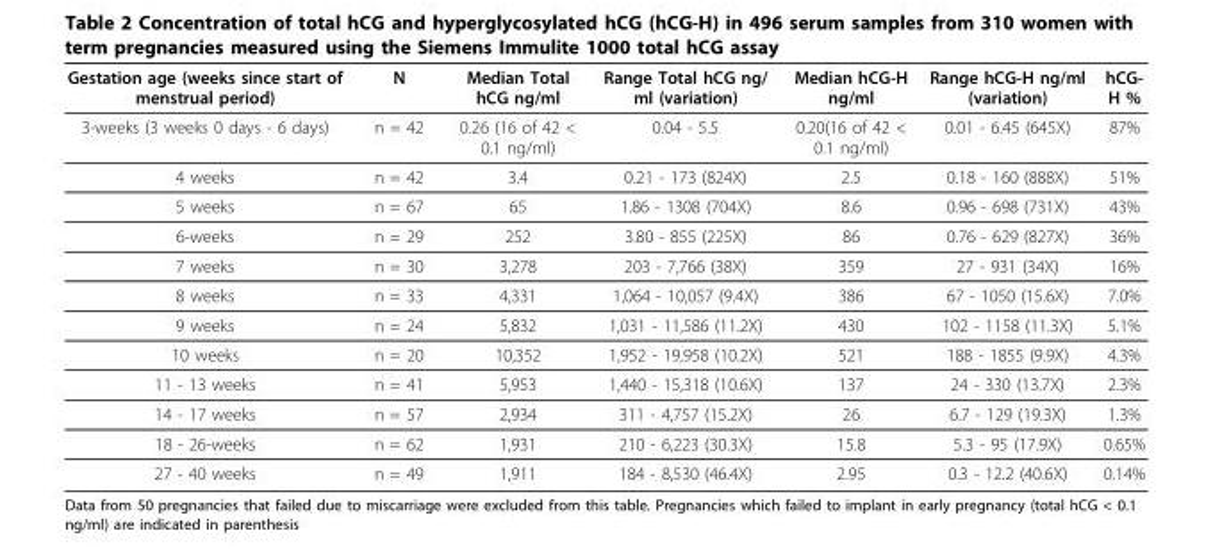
<table><thead><tr><td>Gestation age (weeks since start of menstrual period)</td><td>N</td><td>Median Total hCG ng/ml</td><td>Range Total hCG ng/ ml (variation)</td><td>Median hCG-H ng/ml</td><td>Range hCG-H ng/ml (variation)</td><td>hCG- H %</td></tr></thead><tbody><tr><td>3-weeks (3 weeks 0 days - 6 days)</td><td>n = 42</td><td>0.26 (16 of 42 &lt; 0.1 ng/ml)</td><td>0.04 - 5.5</td><td>0.20(16 of 42 &lt; 0.1 ng/ml)</td><td>0.01 - 6.45 (645X)</td><td>87%</td></tr><tr><td>4 weeks</td><td>n = 42</td><td>3.4</td><td>0.21 - 173 (824X)</td><td>2.5</td><td>0.18 - 160 (888X)</td><td>51%</td></tr><tr><td>5 weeks</td><td>n = 67</td><td>65</td><td>1.86 - 1308 (704X)</td><td>8.6</td><td>0.96 - 698 (731X)</td><td>43%</td></tr><tr><td>6-weeks</td><td>n = 29</td><td>252</td><td>3.80 - 855 (225X)</td><td>86</td><td>0.76 - 629 (827X)</td><td>36%</td></tr><tr><td>7 weeks</td><td>n = 30</td><td>3,278</td><td>203 - 7,766 (38X)</td><td>359</td><td>27 - 931 (34X)</td><td>16%</td></tr><tr><td>8 weeks</td><td>n = 33</td><td>4,331</td><td>1,064 - 10,057 (9.4X)</td><td>386</td><td>67 - 1050 (15.6X)</td><td>7.0%</td></tr><tr><td>9 weeks</td><td>n = 24</td><td>5,832</td><td>1,031 - 11,586 (11.2X)</td><td>430</td><td>102 - 1158 (11.3X)</td><td>5.1%</td></tr><tr><td>10 weeks</td><td>n = 20</td><td>10,352</td><td>1,952 - 19,958 (10.2X)</td><td>521</td><td>188 - 1855 (9.9X)</td><td>4.3%</td></tr><tr><td>11 - 13 weeks</td><td>n = 41</td><td>5,953</td><td>1,440 - 15,318 (10.6X)</td><td>137</td><td>24 - 330 (13.7X)</td><td>2.3%</td></tr><tr><td>14 - 17 weeks</td><td>n = 57</td><td>2,934</td><td>311 - 4,757 (15.2X)</td><td>26</td><td>6.7 - 129 (19.3X)</td><td>1.3%</td></tr><tr><td>18 - 26-weeks</td><td>n = 62</td><td>1,931</td><td>210 - 6,223 (30.3X)</td><td>15.8</td><td>5.3 - 95 (17.9X)</td><td>0.65%</td></tr><tr><td>27 - 40 weeks</td><td>n = 49</td><td>1,911</td><td>184 - 8,530 (46.4X)</td><td>2.95</td><td>0.3 - 12.2 (40.6X)</td><td>0.14%</td></tr></tbody></table>